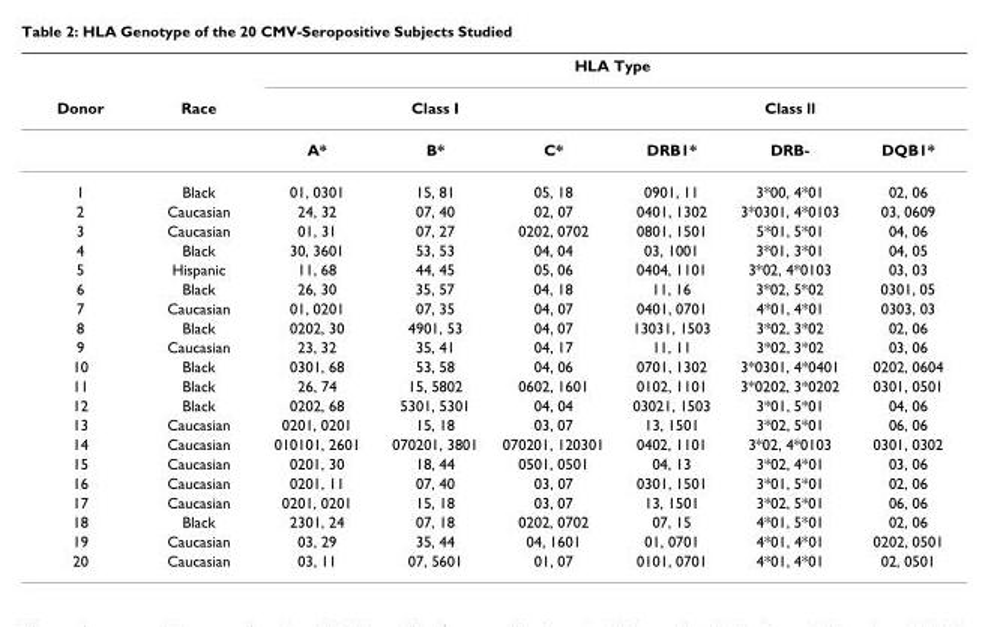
<table><thead><tr><td rowspan="3">Donor</td><td rowspan="3">Race</td><td colspan="6">HLA Type</td></tr><tr><td colspan="3">Class I</td><td colspan="3">Class ll</td></tr><tr><td>A*</td><td>B*</td><td>C*</td><td>DRB1*</td><td>DRB-</td><td>DQB1*</td></tr></thead><tbody><tr><td>1</td><td>Black</td><td>01, 0301</td><td>15, 81</td><td>05, 18</td><td>0901, 11</td><td>3*00, 4*01</td><td>02, 06</td></tr><tr><td>2</td><td>Caucasian</td><td>24, 32</td><td>07, 40</td><td>02, 07</td><td>0401, 1302</td><td>3*0301, 4*0103</td><td>03, 0609</td></tr><tr><td>3</td><td>Caucasian</td><td>01, 31</td><td>07, 27</td><td>0202, 0702</td><td>0801, 1501</td><td>5*01, 5*01</td><td>04, 06</td></tr><tr><td>4</td><td>Black</td><td>30, 3601</td><td>53, 53</td><td>04, 04</td><td>03, 1001</td><td>3*01, 3*01</td><td>04, 05</td></tr><tr><td>5</td><td>Hispanic</td><td>11, 68</td><td>44, 45</td><td>05, 06</td><td>0404, 1101</td><td>3*02, 4*0103</td><td>03, 03</td></tr><tr><td>6</td><td>Black</td><td>26, 30</td><td>35, 57</td><td>04, 18</td><td>11, 16</td><td>3*02, 5*02</td><td>0301, 05</td></tr><tr><td>7</td><td>Caucasian</td><td>01, 0201</td><td>07, 35</td><td>04, 07</td><td>0401, 0701</td><td>4*01, 4*01</td><td>0303, 03</td></tr><tr><td>8</td><td>Black</td><td>0202, 30</td><td>4901, 53</td><td>04, 07</td><td>13031, 1503</td><td>3*02, 3*02</td><td>02, 06</td></tr><tr><td>9</td><td>Caucasian</td><td>23, 32</td><td>35, 41</td><td>04, 17</td><td>11, 11</td><td>3*02, 3*02</td><td>03, 06</td></tr><tr><td>10</td><td>Black</td><td>0301, 68</td><td>53, 58</td><td>04, 06</td><td>0701, 1302</td><td>3*0301, 4*0401</td><td>0202, 0604</td></tr><tr><td>11</td><td>Black</td><td>26, 74</td><td>15, 5802</td><td>0602, 1601</td><td>0102, 1101</td><td>3*0202, 3*0202</td><td>0301, 0501</td></tr><tr><td>12</td><td>Black</td><td>0202, 68</td><td>5301, 5301</td><td>04, 04</td><td>03021, 1503</td><td>3*01, 5*01</td><td>04, 06</td></tr><tr><td>13</td><td>Caucasian</td><td>0201, 0201</td><td>15, 18</td><td>03, 07</td><td>13, 1501</td><td>3*02, 5*01</td><td>06, 06</td></tr><tr><td>14</td><td>Caucasian</td><td>010101, 2601</td><td>070201, 3801</td><td>070201, 120301</td><td>0402, 1101</td><td>3*02, 4*0103</td><td>0301, 0302</td></tr><tr><td>15</td><td>Caucasian</td><td>0201, 30</td><td>18, 44</td><td>0501, 0501</td><td>04, 13</td><td>3*02, 4*01</td><td>03, 06</td></tr><tr><td>16</td><td>Caucasian</td><td>0201, 11</td><td>07, 40</td><td>03, 07</td><td>0301, 1501</td><td>3*01, 5*01</td><td>02, 06</td></tr><tr><td>17</td><td>Caucasian</td><td>0201, 0201</td><td>15, 18</td><td>03, 07</td><td>13, 1501</td><td>3*02, 5*01</td><td>06, 06</td></tr><tr><td>18</td><td>Black</td><td>2301, 24</td><td>07, 18</td><td>0202, 0702</td><td>07, 15</td><td>4*01, 5*01</td><td>02, 06</td></tr><tr><td>19</td><td>Caucasian</td><td>03, 29</td><td>35, 44</td><td>04, 1601</td><td>01, 0701</td><td>4*01, 4*01</td><td>0202, 0501</td></tr><tr><td>20</td><td>Caucasian</td><td>03, 11</td><td>07, 5601</td><td>01, 07</td><td>0101, 0701</td><td>4*01, 4*01</td><td>02, 0501</td></tr></tbody></table>